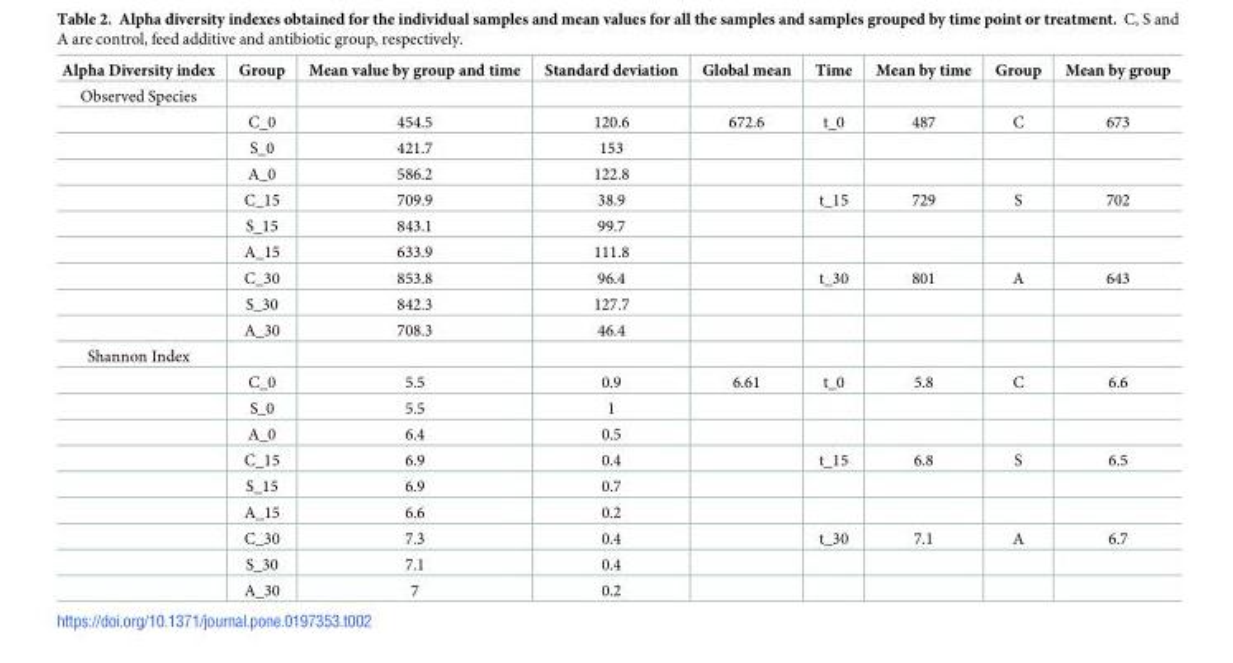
<table><thead><tr><td>Alpha Diversity index</td><td>Group</td><td>Mean value by group and time</td><td>Standard deviation</td><td>Global mean</td><td>Time</td><td>Mean by time</td><td>Group</td><td>Mean by group</td></tr></thead><tbody><tr><td colspan="9">Observed Species</td></tr><tr><td></td><td>C_0</td><td>454.5</td><td>120.6</td><td>672.6</td><td>t_0</td><td>487</td><td>C</td><td>673</td></tr><tr><td></td><td>S_0</td><td>421.7</td><td>153</td><td></td><td></td><td></td><td></td><td></td></tr><tr><td></td><td>A_0</td><td>586.2</td><td>122.8</td><td></td><td></td><td></td><td></td><td></td></tr><tr><td></td><td>C_15</td><td>709.9</td><td>38.9</td><td></td><td>t_15</td><td>729</td><td>S</td><td>702</td></tr><tr><td></td><td>S_15</td><td>843.1</td><td>99.7</td><td></td><td></td><td></td><td></td><td></td></tr><tr><td></td><td>A_15</td><td>633.9</td><td>111.8</td><td></td><td></td><td></td><td></td><td></td></tr><tr><td></td><td>C_30</td><td>853.8</td><td>96.4</td><td></td><td>t_30</td><td>801</td><td>A</td><td>643</td></tr><tr><td></td><td>S_30</td><td>842.3</td><td>127.7</td><td></td><td></td><td></td><td></td><td></td></tr><tr><td></td><td>A_30</td><td>708.3</td><td>46.4</td><td></td><td></td><td></td><td></td><td></td></tr><tr><td colspan="9">Shannon Index</td></tr><tr><td></td><td>C_0</td><td>5.5</td><td>0.9</td><td>6.61</td><td>t_0</td><td>5.8</td><td>C</td><td>6.6</td></tr><tr><td></td><td>S_0</td><td>5.5</td><td>1</td><td></td><td></td><td></td><td></td><td></td></tr><tr><td></td><td>A_0</td><td>6.4</td><td>0.5</td><td></td><td></td><td></td><td></td><td></td></tr><tr><td></td><td>C_15</td><td>6.9</td><td>0.4</td><td></td><td>t_15</td><td>6.8</td><td>S</td><td>6.5</td></tr><tr><td></td><td>S_15</td><td>6.9</td><td>0.7</td><td></td><td></td><td></td><td></td><td></td></tr><tr><td></td><td>A_15</td><td>6.6</td><td>0.2</td><td></td><td></td><td></td><td></td><td></td></tr><tr><td></td><td>C_30</td><td>7.3</td><td>0.4</td><td></td><td>t_30</td><td>7.1</td><td>A</td><td>6.7</td></tr><tr><td></td><td>S_30</td><td>7.1</td><td>0.4</td><td></td><td></td><td></td><td></td><td></td></tr><tr><td></td><td>A_30</td><td>7</td><td>0.2</td><td></td><td></td><td></td><td></td><td></td></tr></tbody></table>